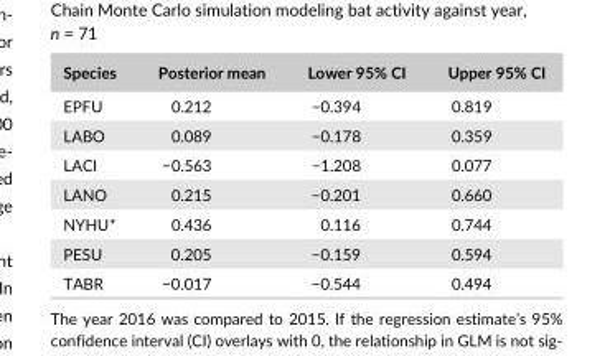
<table><thead><tr><td>Species</td><td>Posterior mean</td><td>Lower 95% CI</td><td>Upper 95% CI</td></tr></thead><tbody><tr><td>EPFU</td><td>0.212</td><td>−0.394</td><td>0.819</td></tr><tr><td>LABO</td><td>0.089</td><td>−0.178</td><td>0.359</td></tr><tr><td>LACI</td><td>−0.563</td><td>−1.208</td><td>0.077</td></tr><tr><td>LANO</td><td>0.215</td><td>−0.201</td><td>0.660</td></tr><tr><td>NYHU*</td><td>0.436</td><td>0.116</td><td>0.744</td></tr><tr><td>PESU</td><td>0.205</td><td>−0.159</td><td>0.594</td></tr><tr><td>TABR</td><td>−0.017</td><td>−0.544</td><td>0.494</td></tr></tbody></table>